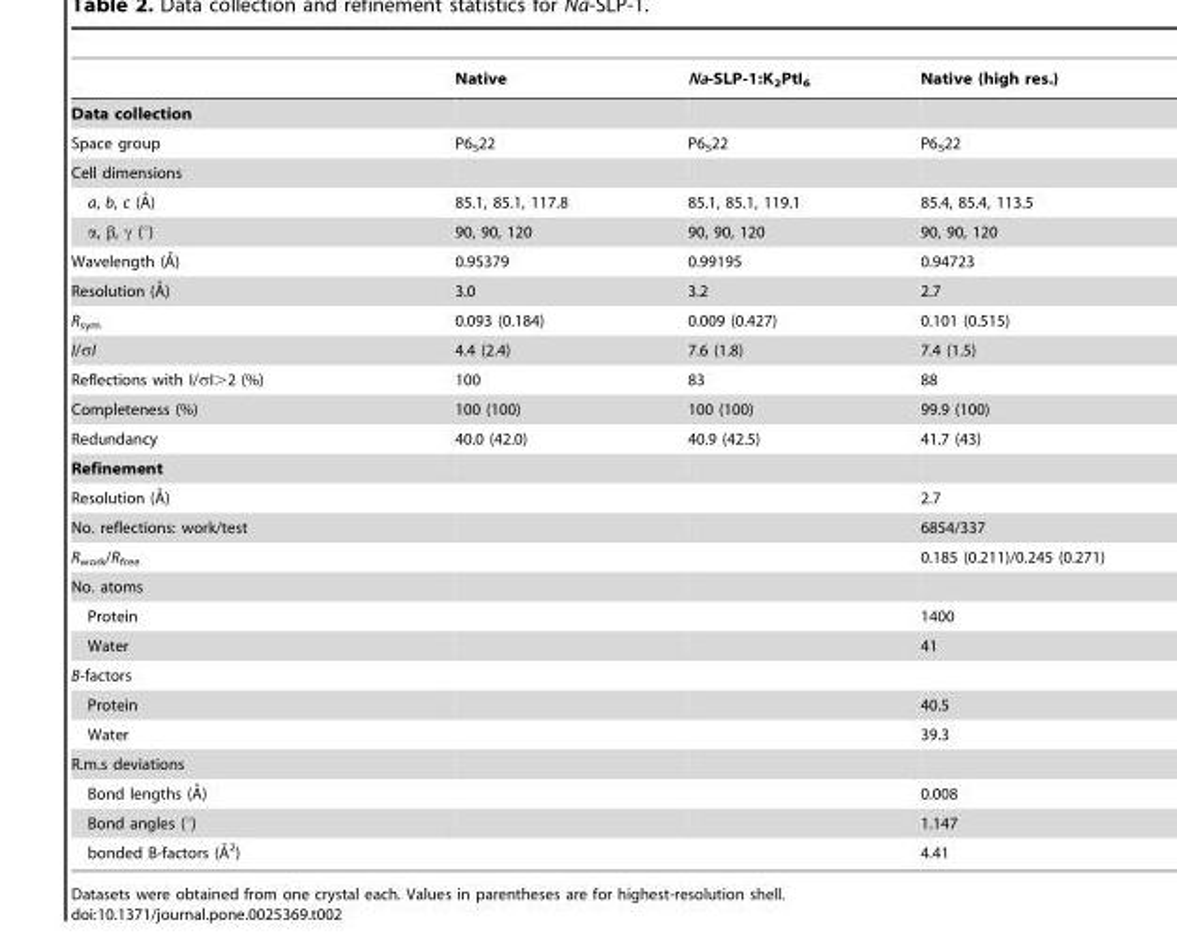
<table><thead><tr><td></td><td>Native</td><td>Na-SLP-1:K<sub>2</sub>PtI<sub>6</sub></td><td>Native (high res.)</td></tr></thead><tbody><tr><td colspan="4">Data collection</td></tr><tr><td>Space group</td><td>P6<sub>5</sub>22</td><td>P6<sub>5</sub>22</td><td>P6<sub>5</sub>22</td></tr><tr><td colspan="4">Cell dimensions</td></tr><tr><td>a, b, c (A˚)</td><td>85.1, 85.1, 117.8</td><td>85.1, 85.1, 119.1</td><td>85.4, 85.4, 113.5</td></tr><tr><td>α, β, γ (°)</td><td>90, 90, 120</td><td>90, 90, 120</td><td>90, 90, 120</td></tr><tr><td>Wavelength (A˚)</td><td>0.95379</td><td>0.99195</td><td>0.94723</td></tr><tr><td>Resolution (A˚)</td><td>3.0</td><td>3.2</td><td>2.7</td></tr><tr><td>R<sub>sym</sub></td><td>0.093 (0.184)</td><td>0.009 (0.427)</td><td>0.101 (0.515)</td></tr><tr><td>I/σI</td><td>4.4 (2.4)</td><td>7.6 (1.8)</td><td>7.4 (1.5)</td></tr><tr><td>Reflections with I/σI&gt;2 (%)</td><td>100</td><td>83</td><td>88</td></tr><tr><td>Completeness (%)</td><td>100 (100)</td><td>100 (100)</td><td>99.9 (100)</td></tr><tr><td>Redundancy</td><td>40.0 (42.0)</td><td>40.9 (42.5)</td><td>41.7 (43)</td></tr><tr><td colspan="4">Refinement</td></tr><tr><td>Resolution (A˚)</td><td></td><td></td><td>2.7</td></tr><tr><td>No. reflections: work/test</td><td></td><td></td><td>6854/337</td></tr><tr><td>R<sub>work</sub>/R<sub>free</sub></td><td></td><td></td><td>0.185 (0.211)/0.245 (0.271)</td></tr><tr><td colspan="4">No. atoms</td></tr><tr><td>Protein</td><td></td><td></td><td>1400</td></tr><tr><td>Water</td><td></td><td></td><td>41</td></tr><tr><td colspan="4">B-factors</td></tr><tr><td>Protein</td><td></td><td></td><td>40.5</td></tr><tr><td>Water</td><td></td><td></td><td>39.3</td></tr><tr><td colspan="4">R.m.s deviations</td></tr><tr><td>Bond lengths (A˚)</td><td></td><td></td><td>0.008</td></tr><tr><td>Bond angles (°)</td><td></td><td></td><td>1.147</td></tr><tr><td>bonded B-factors (A˚ 2)</td><td></td><td></td><td>4.41</td></tr></tbody></table>